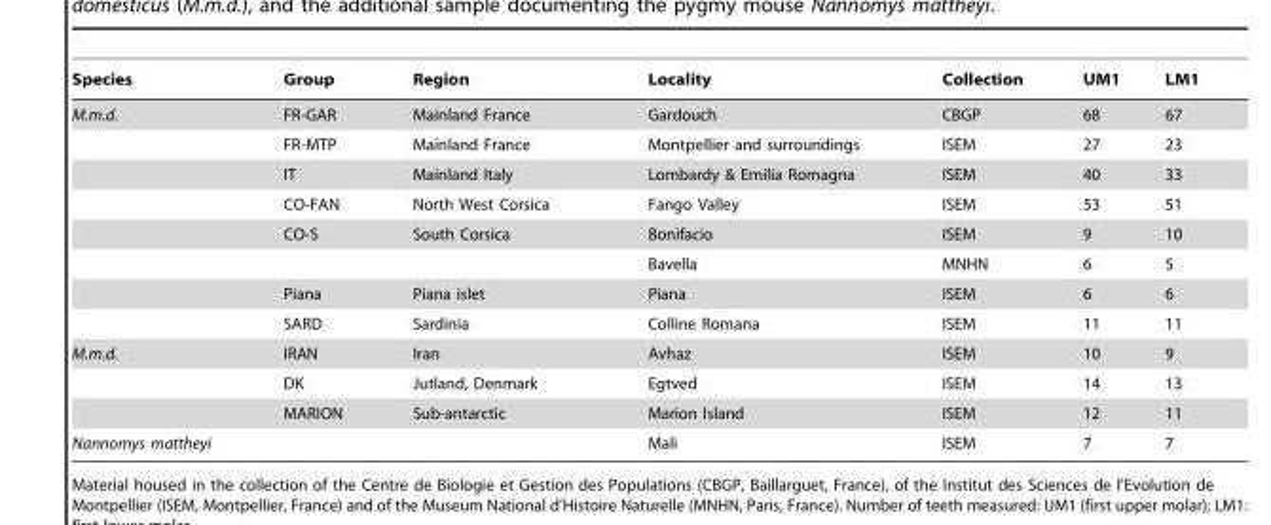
<table><thead><tr><td>Species</td><td>Group</td><td>Region</td><td>Locality</td><td>Collection</td><td>UM1</td><td>LM1</td></tr></thead><tbody><tr><td rowspan="8">M.m.d.</td><td>FR-GAR</td><td>Mainland France</td><td>Gardouch</td><td>CBGP</td><td>68</td><td>67</td></tr><tr><td>FR-MTP</td><td>Mainland France</td><td>Montpellier and surroundings</td><td>ISEM</td><td>27</td><td>23</td></tr><tr><td>IT</td><td>Mainland Italy</td><td>Lombardy &amp; Emilia Romagna</td><td>ISEM</td><td>40</td><td>33</td></tr><tr><td>CO-FAN</td><td>North West Corsica</td><td>Fango Valley</td><td>ISEM</td><td>53</td><td>51</td></tr><tr><td>CO-S</td><td>South Corsica</td><td>Bonifacio</td><td>ISEM</td><td>9</td><td>10</td></tr><tr><td></td><td></td><td>Bavella</td><td>MNHN</td><td>6</td><td>5</td></tr><tr><td>Piana</td><td>Piana islet</td><td>Piana</td><td>ISEM</td><td>6</td><td>6</td></tr><tr><td>SARD</td><td>Sardinia</td><td>Colline Romana</td><td>ISEM</td><td>11</td><td>11</td></tr><tr><td rowspan="3">M.m.d.</td><td>IRAN</td><td>Iran</td><td>Avhaz</td><td>ISEM</td><td>10</td><td>9</td></tr><tr><td>DK</td><td>Jutland, Denmark</td><td>Egtved</td><td>ISEM</td><td>14</td><td>13</td></tr><tr><td>MARION</td><td>Sub-antarctic</td><td>Marion Island</td><td>ISEM</td><td>12</td><td>11</td></tr><tr><td>Nannomys mattheyi</td><td></td><td></td><td>Mali</td><td>ISEM</td><td>7</td><td>7</td></tr></tbody></table>